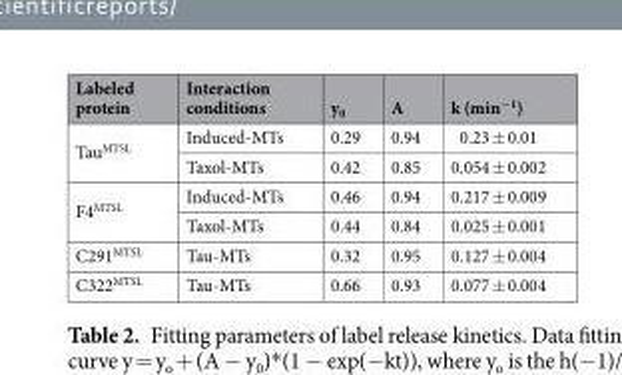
<table><thead><tr><td>Labeled protein</td><td>Interaction conditions</td><td>y<sub>0</sub></td><td>A</td><td>k (min<sup>−1</sup>)</td></tr></thead><tbody><tr><td rowspan="2">Tau<sup>MTSL</sup></td><td>Induced-MTs</td><td>0.29</td><td>0.94</td><td>0.23 ± 0.01</td></tr><tr><td>Taxol-MTs</td><td>0.42</td><td>0.85</td><td>0.054 ± 0.002</td></tr><tr><td rowspan="2">F4<sup>MTSL</sup></td><td>Induced-MTs</td><td>0.46</td><td>0.94</td><td>0.217 ± 0.009</td></tr><tr><td>Taxol-MTs</td><td>0.44</td><td>0.84</td><td>0.025 ± 0.001</td></tr><tr><td>C291<sup>MTSL</sup></td><td>Tau-MTs</td><td>0.32</td><td>0.95</td><td>0.127 ± 0.004</td></tr><tr><td>C322<sup>MTSL</sup></td><td>Tau-MTs</td><td>0.66</td><td>0.93</td><td>0.077 ± 0.004</td></tr></tbody></table>